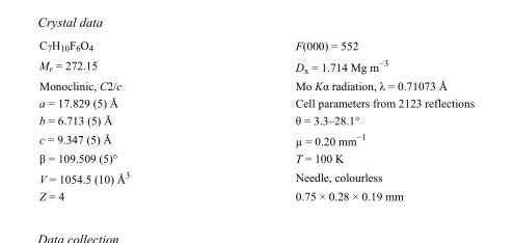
<table><tbody><tr><td>C<sub>7</sub>H<sub>10</sub>F<sub>6</sub>O<sub>4</sub></td><td>F(000) = 552</td></tr><tr><td>M<sub>r</sub> = 272.15</td><td>D<sub>x</sub> = 1.714 Mg m<sup>−3</sup></td></tr><tr><td>Monoclinic, C2/c</td><td>Mo Kα radiation, λ = 0.71073 Å</td></tr><tr><td>a = 17.829 (5) Å</td><td>Cell parameters from 2123 reflections</td></tr><tr><td>b = 6.713 (5) Å</td><td>θ = 3.3–28.1°</td></tr><tr><td>c = 9.347 (5) Å</td><td>µ = 0.20 mm<sup>−1</sup></td></tr><tr><td>β = 109.509 (5)°</td><td>T = 100 K</td></tr><tr><td>V = 1054.5 (10) Å<sup>3</sup></td><td>Needle, colourless</td></tr><tr><td>Z = 4</td><td>0.75 × 0.28 × 0.19 mm</td></tr></tbody></table>